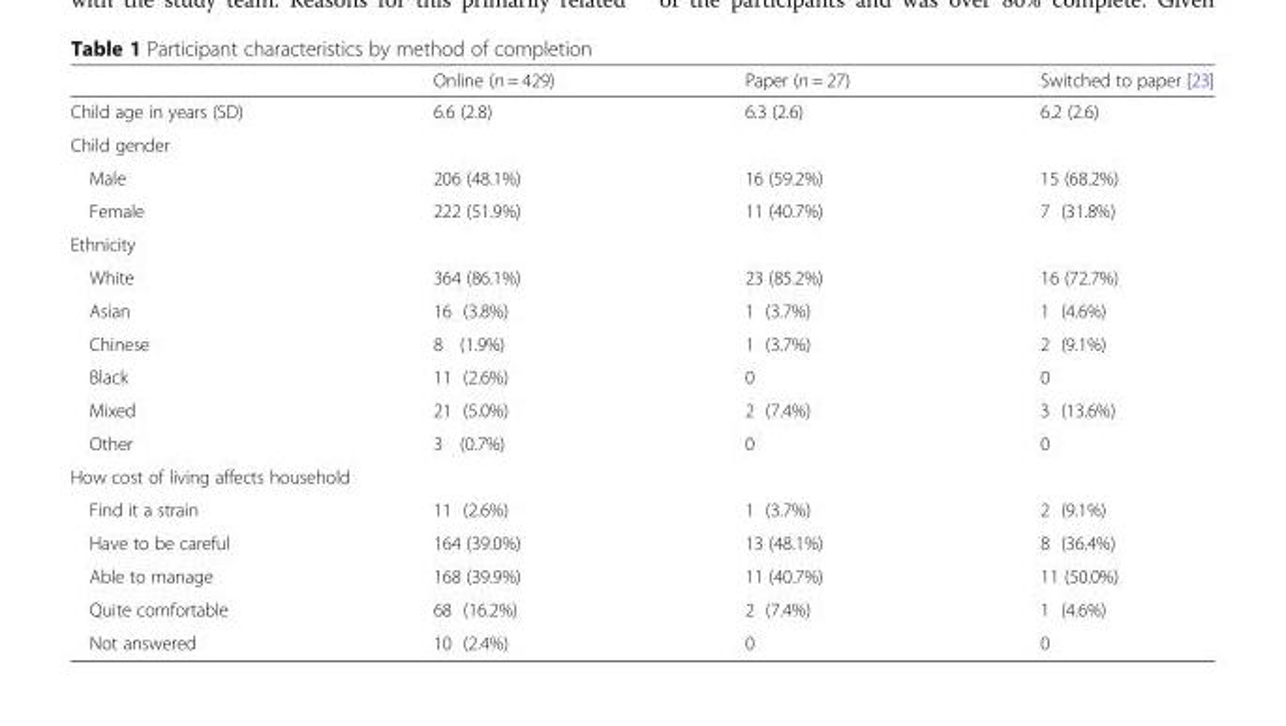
<table><thead><tr><td></td><td>Online (n = 429)</td><td>Paper (n = 27)</td><td>Switched to paper [23]</td></tr></thead><tbody><tr><td>Child age in years (SD)</td><td>6.6 (2.8)</td><td>6.3 (2.6)</td><td>6.2 (2.6)</td></tr><tr><td colspan="4">Child gender</td></tr><tr><td>Male</td><td>206 (48.1%)</td><td>16 (59.2%)</td><td>15 (68.2%)</td></tr><tr><td>Female</td><td>222 (51.9%)</td><td>11 (40.7%)</td><td>7 (31.8%)</td></tr><tr><td colspan="4">Ethnicity</td></tr><tr><td>White</td><td>364 (86.1%)</td><td>23 (85.2%)</td><td>16 (72.7%)</td></tr><tr><td>Asian</td><td>16 (3.8%)</td><td>1 (3.7%)</td><td>1 (4.6%)</td></tr><tr><td>Chinese</td><td>8 (1.9%)</td><td>1 (3.7%)</td><td>2 (9.1%)</td></tr><tr><td>Black</td><td>11 (2.6%)</td><td>0</td><td>0</td></tr><tr><td>Mixed</td><td>21 (5.0%)</td><td>2 (7.4%)</td><td>3 (13.6%)</td></tr><tr><td>Other</td><td>3 (0.7%)</td><td>0</td><td>0</td></tr><tr><td colspan="4">How cost of living affects household</td></tr><tr><td>Find it a strain</td><td>11 (2.6%)</td><td>1 (3.7%)</td><td>2 (9.1%)</td></tr><tr><td>Have to be careful</td><td>164 (39.0%)</td><td>13 (48.1%)</td><td>8 (36.4%)</td></tr><tr><td>Able to manage</td><td>168 (39.9%)</td><td>11 (40.7%)</td><td>11 (50.0%)</td></tr><tr><td>Quite comfortable</td><td>68 (16.2%)</td><td>2 (7.4%)</td><td>1 (4.6%)</td></tr><tr><td>Not answered</td><td>10 (2.4%)</td><td>0</td><td>0</td></tr></tbody></table>